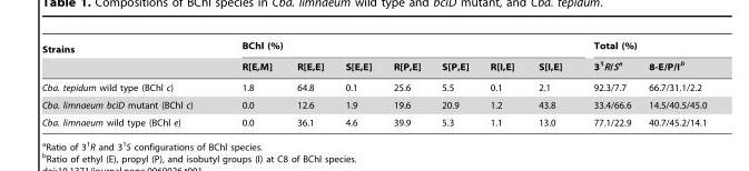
<table><thead><tr><td rowspan="2">Strains</td><td colspan="7">BChl (%)</td><td colspan="2">Total (%)</td></tr><tr><td>R[E,M]</td><td>R[E,E]</td><td>S[E,E]</td><td>R[P,E]</td><td>S[P,E]</td><td>R[I,E]</td><td>S[I,E]</td><td>3<sup>1</sup>R/Sa</td><td>8-E/P/I<sup>b</sup></td></tr></thead><tbody><tr><td>Cba. tepidum wild type (BChl c)</td><td>1.8</td><td>64.8</td><td>0.1</td><td>25.6</td><td>5.5</td><td>0.1</td><td>2.1</td><td>92.3/7.7</td><td>66.7/31.1/2.2</td></tr><tr><td>Cba. limnaeum bciD mutant (BChl c)</td><td>0.0</td><td>12.6</td><td>1.9</td><td>19.6</td><td>20.9</td><td>1.2</td><td>43.8</td><td>33.4/66.6</td><td>14.5/40.5/45.0</td></tr><tr><td>Cba. limnaeum wild type (BChl e)</td><td>0.0</td><td>36.1</td><td>4.6</td><td>39.9</td><td>5.3</td><td>1.1</td><td>13.0</td><td>77.1/22.9</td><td>40.7/45.2/14.1</td></tr></tbody></table>